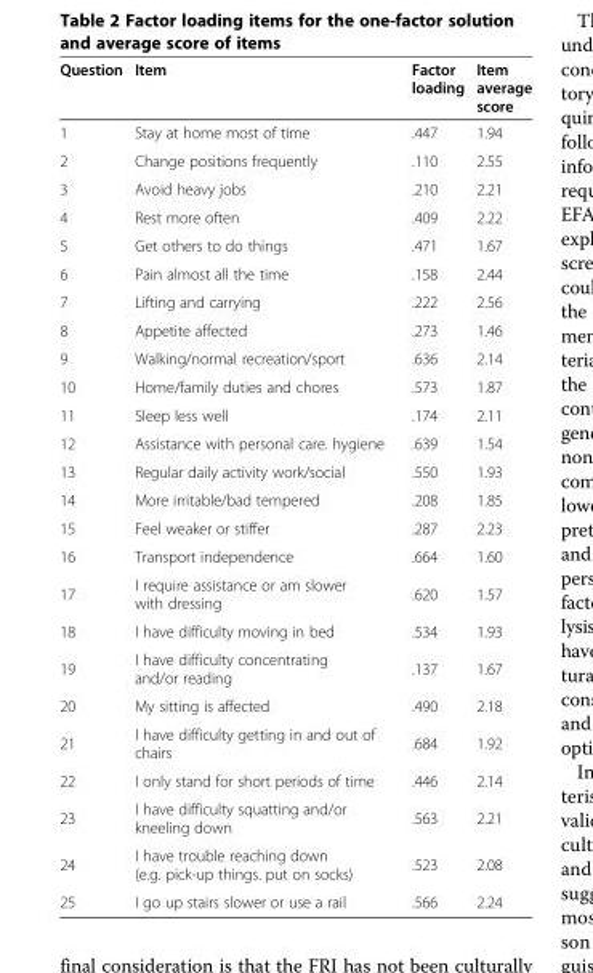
<table><thead><tr><td>Question</td><td>Item</td><td>Factor loading</td><td>Item average score</td></tr></thead><tbody><tr><td>1</td><td>Stay at home most of time</td><td>.447</td><td>1.94</td></tr><tr><td>2</td><td>Change positions frequently</td><td>.110</td><td>2.55</td></tr><tr><td>3</td><td>Avoid heavy jobs</td><td>.210</td><td>2.21</td></tr><tr><td>4</td><td>Rest more often</td><td>.409</td><td>2.22</td></tr><tr><td>5</td><td>Get others to do things</td><td>.471</td><td>1.67</td></tr><tr><td>6</td><td>Pain almost all the time</td><td>.158</td><td>2.44</td></tr><tr><td>7</td><td>Lifting and carrying</td><td>.222</td><td>2.56</td></tr><tr><td>8</td><td>Appetite affected</td><td>.273</td><td>1.46</td></tr><tr><td>9</td><td>Walking/normal recreation/sport</td><td>.636</td><td>2.14</td></tr><tr><td>10</td><td>Home/family duties and chores</td><td>.573</td><td>1.87</td></tr><tr><td>11</td><td>Sleep less well</td><td>.174</td><td>2.11</td></tr><tr><td>12</td><td>Assistance with personal care. hygiene</td><td>.639</td><td>1.54</td></tr><tr><td>13</td><td>Regular daily activity work/social</td><td>.550</td><td>1.93</td></tr><tr><td>14</td><td>More irritable/bad tempered</td><td>.208</td><td>1.85</td></tr><tr><td>15</td><td>Feel weaker or stiffer</td><td>.287</td><td>2.23</td></tr><tr><td>16</td><td>Transport independence</td><td>.664</td><td>1.60</td></tr><tr><td>17</td><td>I require assistance or am slower with dressing</td><td>.620</td><td>1.57</td></tr><tr><td>18</td><td>I have difficulty moving in bed</td><td>.534</td><td>1.93</td></tr><tr><td>19</td><td>I have difficulty concentrating and/or reading</td><td>.137</td><td>1.67</td></tr><tr><td>20</td><td>My sitting is affected</td><td>.490</td><td>2.18</td></tr><tr><td>21</td><td>I have difficulty getting in and out of chairs</td><td>.684</td><td>1.92</td></tr><tr><td>22</td><td>I only stand for short periods of time</td><td>.446</td><td>2.14</td></tr><tr><td>23</td><td>I have difficulty squatting and/or kneeling down</td><td>.563</td><td>2.21</td></tr><tr><td>24</td><td>I have trouble reaching down (e.g. pick-up things. put on socks)</td><td>.523</td><td>2.08</td></tr><tr><td>25</td><td>I go up stairs slower or use a rail</td><td>.566</td><td>2.24</td></tr></tbody></table>